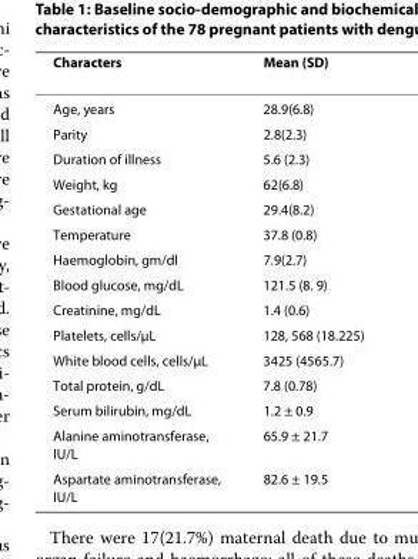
<table><thead><tr><td>Characters</td><td>Mean (SD)</td></tr></thead><tbody><tr><td>Age, years</td><td>28.9(6.8)</td></tr><tr><td>Parity</td><td>2.8(2.3)</td></tr><tr><td>Duration of illness</td><td>5.6 (2.3)</td></tr><tr><td>Weight, kg</td><td>62(6.8)</td></tr><tr><td>Gestational age</td><td>29.4(8.2)</td></tr><tr><td>Temperature</td><td>37.8 (0.8)</td></tr><tr><td>Haemoglobin, gm/dl</td><td>7.9(2.7)</td></tr><tr><td>Blood glucose, mg/dL</td><td>121.5 (8. 9)</td></tr><tr><td>Creatinine, mg/dL</td><td>1.4 (0.6)</td></tr><tr><td>Platelets, cells/μL</td><td>128, 568 (18.225)</td></tr><tr><td>White blood cells, cells/μL</td><td>3425 (4565.7)</td></tr><tr><td>Total protein, g/dL</td><td>7.8 (0.78)</td></tr><tr><td>Serum bilirubin, mg/dL</td><td>1.2 ± 0.9</td></tr><tr><td>Alanine aminotransferase, IU/L</td><td>65.9 ± 21.7</td></tr><tr><td>Aspartate aminotransferase, IU/L</td><td>82.6 ± 19.5</td></tr></tbody></table>